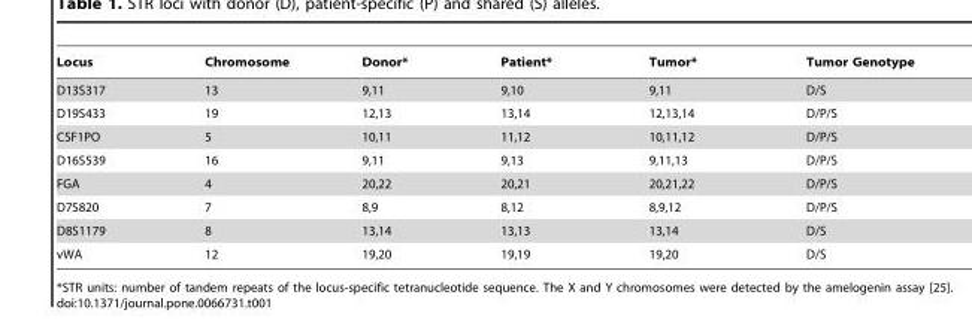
<table><thead><tr><td>Locus</td><td>Chromosome</td><td>Donor*</td><td>Patient*</td><td>Tumor*</td><td>Tumor Genotype</td></tr></thead><tbody><tr><td>D13S317</td><td>13</td><td>9,11</td><td>9,10</td><td>9,11</td><td>D/S</td></tr><tr><td>D19S433</td><td>19</td><td>12,13</td><td>13,14</td><td>12,13,14</td><td>D/P/S</td></tr><tr><td>CSF1PO</td><td>5</td><td>10,11</td><td>11,12</td><td>10,11,12</td><td>D/P/S</td></tr><tr><td>D16S539</td><td>16</td><td>9,11</td><td>9,13</td><td>9,11,13</td><td>D/P/S</td></tr><tr><td>FGA</td><td>4</td><td>20,22</td><td>20,21</td><td>20,21,22</td><td>D/P/S</td></tr><tr><td>D7S820</td><td>7</td><td>8,9</td><td>8,12</td><td>8,9,12</td><td>D/P/S</td></tr><tr><td>D8S1179</td><td>8</td><td>13,14</td><td>13,13</td><td>13,14</td><td>D/S</td></tr><tr><td>vWA</td><td>12</td><td>19,20</td><td>19,19</td><td>19,20</td><td>D/S</td></tr></tbody></table>